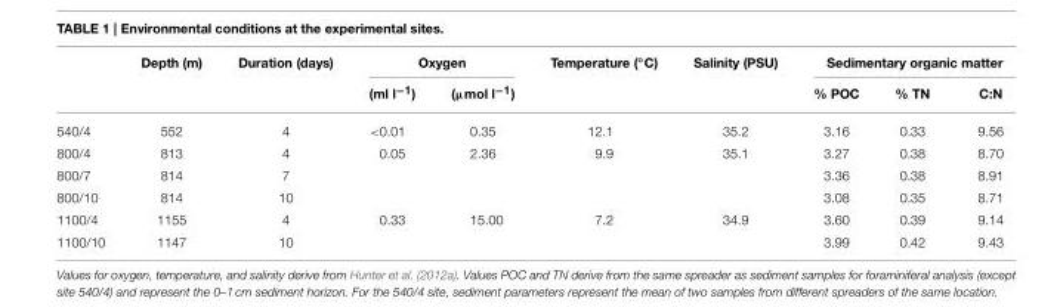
<table><thead><tr><td rowspan="2"></td><td rowspan="2">Depth (m)</td><td rowspan="2">Duration (days)</td><td colspan="2">Oxygen</td><td rowspan="2">Temperature (◦C)</td><td rowspan="2">Salinity (PSU)</td><td colspan="3">Sedimentary organic matter</td></tr><tr><td>(ml l<sup>−1</sup>)</td><td>(µmol l<sup>−1</sup>)</td><td>% POC</td><td>% TN</td><td>C:N</td></tr></thead><tbody><tr><td>540/4</td><td>552</td><td>4</td><td>&lt;0.01</td><td>0.35</td><td>12.1</td><td>35.2</td><td>3.16</td><td>0.33</td><td>9.56</td></tr><tr><td>800/4</td><td>813</td><td>4</td><td>0.05</td><td>2.36</td><td>9.9</td><td>35.1</td><td>3.27</td><td>0.38</td><td>8.70</td></tr><tr><td>800/7</td><td>814</td><td>7</td><td></td><td></td><td></td><td></td><td>3.36</td><td>0.38</td><td>8.91</td></tr><tr><td>800/10</td><td>814</td><td>10</td><td></td><td></td><td></td><td></td><td>3.08</td><td>0.35</td><td>8.71</td></tr><tr><td>1100/4</td><td>1155</td><td>4</td><td>0.33</td><td>15.00</td><td>7.2</td><td>34.9</td><td>3.60</td><td>0.39</td><td>9.14</td></tr><tr><td>1100/10</td><td>1147</td><td>10</td><td></td><td></td><td></td><td></td><td>3.99</td><td>0.42</td><td>9.43</td></tr></tbody></table>